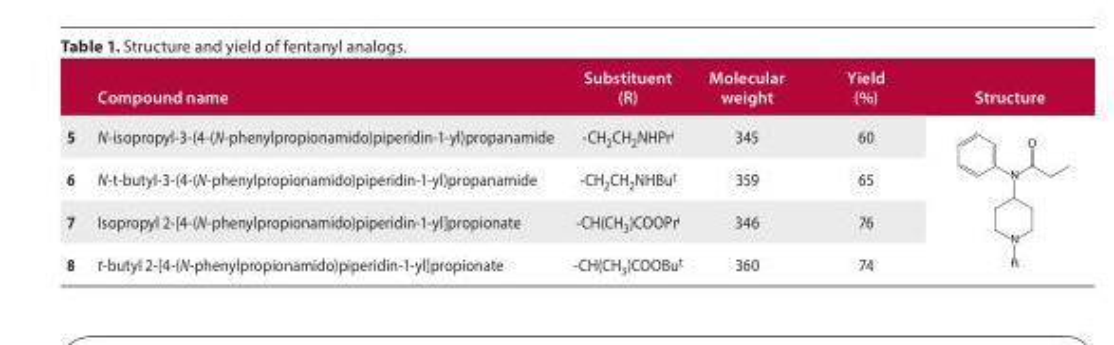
<table><thead><tr><td></td><td>Compound name</td><td>Substituent (R)</td><td>Molecular weight</td><td>Yield (%)</td><td>Structure</td></tr></thead><tbody><tr><td>5</td><td>N-isopropyl-3-(4-(N-phenylpropionamido)piperidin-1-yl)propanamide</td><td>-CH<sub>2</sub>CH<sub>2</sub>NHPr<sup>i</sup></td><td>345</td><td>60</td><td rowspan="4">N N O R</td></tr><tr><td>6</td><td>N-t-butyl-3-(4-(N-phenylpropionamido)piperidin-1-yl)propanamide</td><td>-CH<sub>2</sub>CH<sub>2</sub>NHBu<sup>t</sup></td><td>359</td><td>65</td></tr><tr><td>7</td><td>Isopropyl 2-[4-(N-phenylpropionamido)piperidin-1-yl]propionate</td><td>-CH(CH<sub>3</sub>)COOPr<sup>i</sup></td><td>346</td><td>76</td></tr><tr><td>8</td><td>t-butyl 2-[4-(N-phenylpropionamido)piperidin-1-yl]propionate</td><td>-CH(CH<sub>3</sub>)COOBu<sup>t</sup></td><td>360</td><td>74</td></tr></tbody></table>